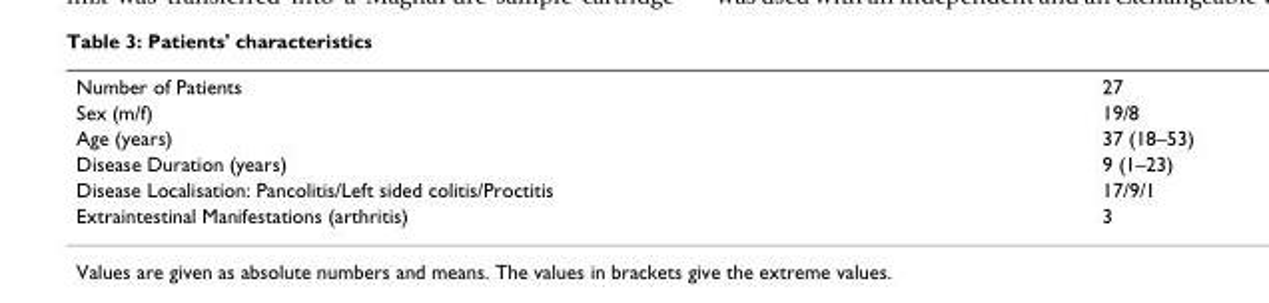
<table><tbody><tr><td>Number of Patients</td><td>27</td></tr><tr><td>Sex (m/f)</td><td>19/8</td></tr><tr><td>Age (years)</td><td>37 (18–53)</td></tr><tr><td>Disease Duration (years)</td><td>9 (1–23)</td></tr><tr><td>Disease Localisation: Pancolitis/Left sided colitis/Proctitis</td><td>17/9/1</td></tr><tr><td>Extraintestinal Manifestations (arthritis)</td><td>3</td></tr></tbody></table>